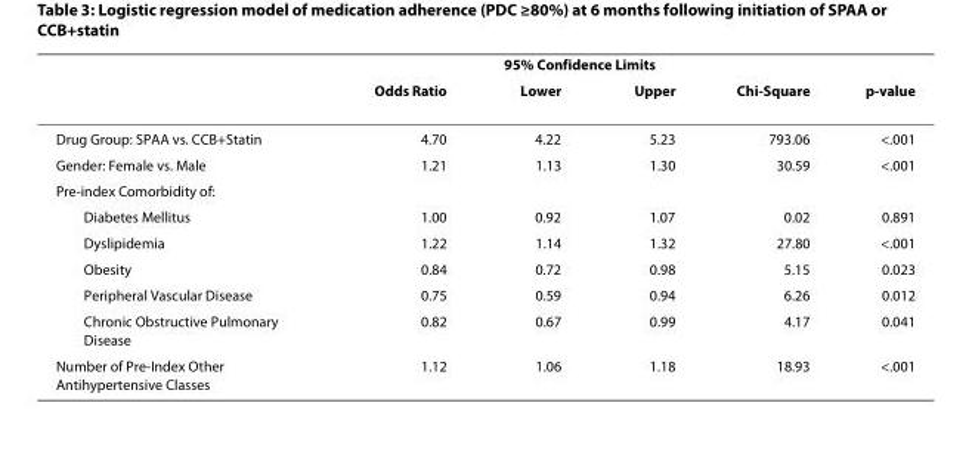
<table><thead><tr><td rowspan="2"></td><td rowspan="2">Odds Ratio</td><td colspan="2">95% Confidence Limits</td><td rowspan="2">Chi-Square</td><td rowspan="2">p-value</td></tr><tr><td>Lower</td><td>Upper</td></tr></thead><tbody><tr><td>Drug Group: SPAA vs. CCB+Statin</td><td>4.70</td><td>4.22</td><td>5.23</td><td>793.06</td><td>&lt;.001</td></tr><tr><td>Gender: Female vs. Male</td><td>1.21</td><td>1.13</td><td>1.30</td><td>30.59</td><td>&lt;.001</td></tr><tr><td colspan="6">Pre-index Comorbidity of:</td></tr><tr><td>Diabetes Mellitus</td><td>1.00</td><td>0.92</td><td>1.07</td><td>0.02</td><td>0.891</td></tr><tr><td>Dyslipidemia</td><td>1.22</td><td>1.14</td><td>1.32</td><td>27.80</td><td>&lt;.001</td></tr><tr><td>Obesity</td><td>0.84</td><td>0.72</td><td>0.98</td><td>5.15</td><td>0.023</td></tr><tr><td>Peripheral Vascular Disease</td><td>0.75</td><td>0.59</td><td>0.94</td><td>6.26</td><td>0.012</td></tr><tr><td>Chronic Obstructive Pulmonary Disease</td><td>0.82</td><td>0.67</td><td>0.99</td><td>4.17</td><td>0.041</td></tr><tr><td>Number of Pre-Index Other Antihypertensive Classes</td><td>1.12</td><td>1.06</td><td>1.18</td><td>18.93</td><td>&lt;.001</td></tr></tbody></table>